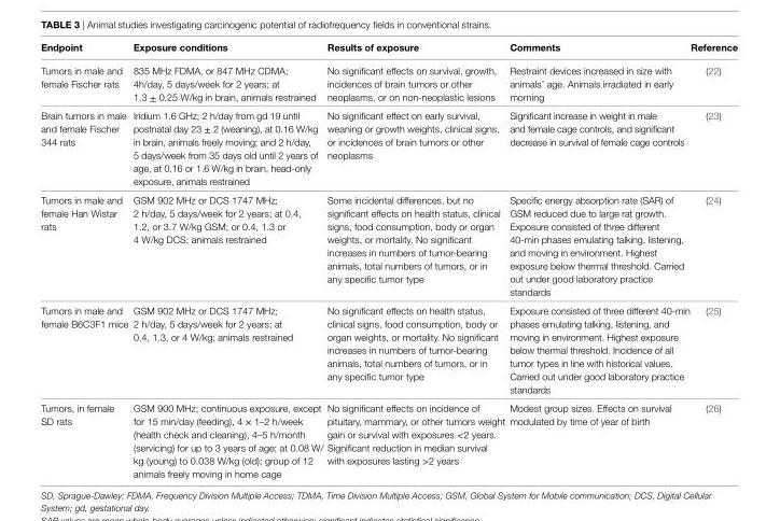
<table><thead><tr><td>endpoint</td><td>exposure conditions</td><td>Results of exposure</td><td>Comments</td><td>Reference</td></tr></thead><tbody><tr><td>Tumors in male and female Fischer rats</td><td>835 MHz FDMA, or 847 MHz CDMA; 4h/day, 5 days/week for 2 years; at 1.3 ± 0.25 W/kg in brain, animals restrained</td><td>No significant effects on survival, growth, incidences of brain tumors or other neoplasms, or on non-neoplastic lesions</td><td>Restraint devices increased in size with animals’ age. Animals irradiated in early morning</td><td>(22)</td></tr><tr><td>Brain tumors in male and female Fischer 344 rats</td><td>Iridium 1.6 GHz; 2 h/day from gd 19 until postnatal day 23 ± 2 (weaning), at 0.16 W/kg in brain, animals freely moving; and 2 h/day, 5 days/week from 35 days old until 2 years of age, at 0.16 or 1.6 W/kg in brain, head-only exposure, animals restrained</td><td>No significant effect on early survival, weaning or growth weights, clinical signs, or incidences of brain tumors or other neoplasms</td><td>Significant increase in weight in male and female cage controls, and significant decrease in survival of female cage controls</td><td>(23)</td></tr><tr><td>Tumors in male and female Han Wistar rats</td><td>GSM 902 MHz or DCS 1747 MHz; 2 h/day, 5 days/week for 2 years; at 0.4, 1.2, or 3.7 W/kg GSM; or 0.4, 1.3 or 4 W/kg DCS; animals restrained</td><td>Some incidental differences, but no significant effects on health status, clinical signs, food consumption, body or organ weights, or mortality. No significant increases in numbers of tumor-bearing animals, total numbers of tumors, or in any specific tumor type</td><td>Specific energy absorption rate (SAR) of GSM reduced due to large rat growth. Exposure consisted of three different 40-min phases emulating talking, listening, and moving in environment. Highest exposure below thermal threshold. Carried out under good laboratory practice standards</td><td>(24)</td></tr><tr><td>Tumors in male and female B6C3F1 mice</td><td>GSM 902 MHz or DCS 1747 MHz; 2 h/day, 5 days/week for 2 years; at 0.4, 1.3, or 4 W/kg; animals restrained</td><td>No significant effects on health status, clinical signs, food consumption, body or organ weights, or mortality. No significant increases in numbers of tumor-bearing animals, total numbers of tumors, or in any specific tumor type</td><td>Exposure consisted of three different 40-min phases emulating talking, listening, and moving in environment. Highest exposure below thermal threshold. Incidence of all tumor types in line with historical values. Carried out under good laboratory practice standards</td><td>(25)</td></tr><tr><td>Tumors, in female SD rats</td><td>GSM 900 MHz; continuous exposure, except for 15 min/day (feeding), 4 × 1–2 h/week (health check and cleaning), 4–5 h/month (servicing) for up to 3 years of age; at 0.08 W/ kg (young) to 0.038 W/kg (old); group of 12 animals freely moving in home cage</td><td>No significant effects on incidence of pituitary, mammary, or other tumors weight gain or survival with exposures &lt;2 years. Significant reduction in median survival with exposures lasting &gt;2 years</td><td>Modest group sizes. Effects on survival modulated by time of year of birth</td><td>(26)</td></tr></tbody></table>